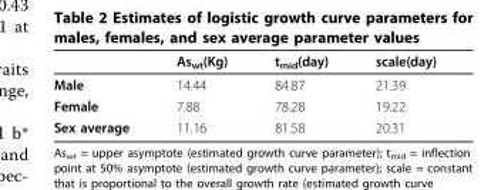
<table><thead><tr><td></td><td>As<sub>wt</sub>(Kg)</td><td>t<sub>mid</sub>(day)</td><td>scale(day)</td></tr></thead><tbody><tr><td>Male</td><td>14.44</td><td>84.87</td><td>21.39</td></tr><tr><td>Female</td><td>7.88</td><td>78.28</td><td>19.22</td></tr><tr><td>Sex average</td><td>11.16</td><td>81.58</td><td>20.31</td></tr></tbody></table>